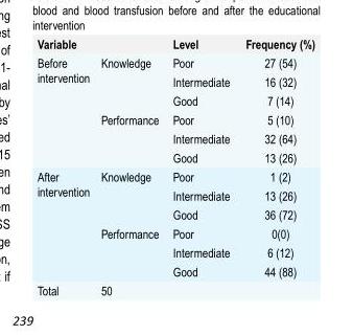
<table><thead><tr><td>Variable</td><td></td><td>Level</td><td>Frequency (%)</td></tr></thead><tbody><tr><td rowspan="6">Before intervention</td><td rowspan="3">Knowledge</td><td>Poor</td><td>27 (54)</td></tr><tr><td>Intermediate</td><td>16 (32)</td></tr><tr><td>Good</td><td>7 (14)</td></tr><tr><td rowspan="3">Performance</td><td>Poor</td><td>5 (10)</td></tr><tr><td>Intermediate</td><td>32 (64)</td></tr><tr><td>Good</td><td>13 (26)</td></tr><tr><td rowspan="6">After intervention</td><td rowspan="3">Knowledge</td><td>Poor</td><td>1 (2)</td></tr><tr><td>Intermediate</td><td>13 (26)</td></tr><tr><td>Good</td><td>36 (72)</td></tr><tr><td rowspan="3">Performance</td><td>Poor</td><td>0(0)</td></tr><tr><td>Intermediate</td><td>6 (12)</td></tr><tr><td>Good</td><td>44 (88)</td></tr><tr><td>Total</td><td>50</td><td></td><td></td></tr></tbody></table>